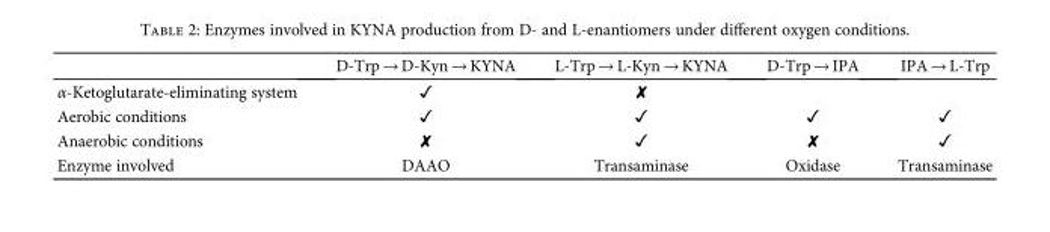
<table><thead><tr><td></td><td>D-Trp → D-Kyn → KYNA</td><td>L-Trp → L-Kyn → KYNA</td><td>D-Trp → IPA</td><td>IPA → L-Trp</td></tr></thead><tbody><tr><td>α-Ketoglutarate-eliminating system</td><td>✓</td><td>✘</td><td></td><td></td></tr><tr><td>Aerobic conditions</td><td>✓</td><td>✓</td><td>✓</td><td>✓</td></tr><tr><td>Anaerobic conditions</td><td>✘</td><td>✓</td><td>✘</td><td>✓</td></tr><tr><td>Enzyme involved</td><td>DAAO</td><td>Transaminase</td><td>Oxidase</td><td>Transaminase</td></tr></tbody></table>